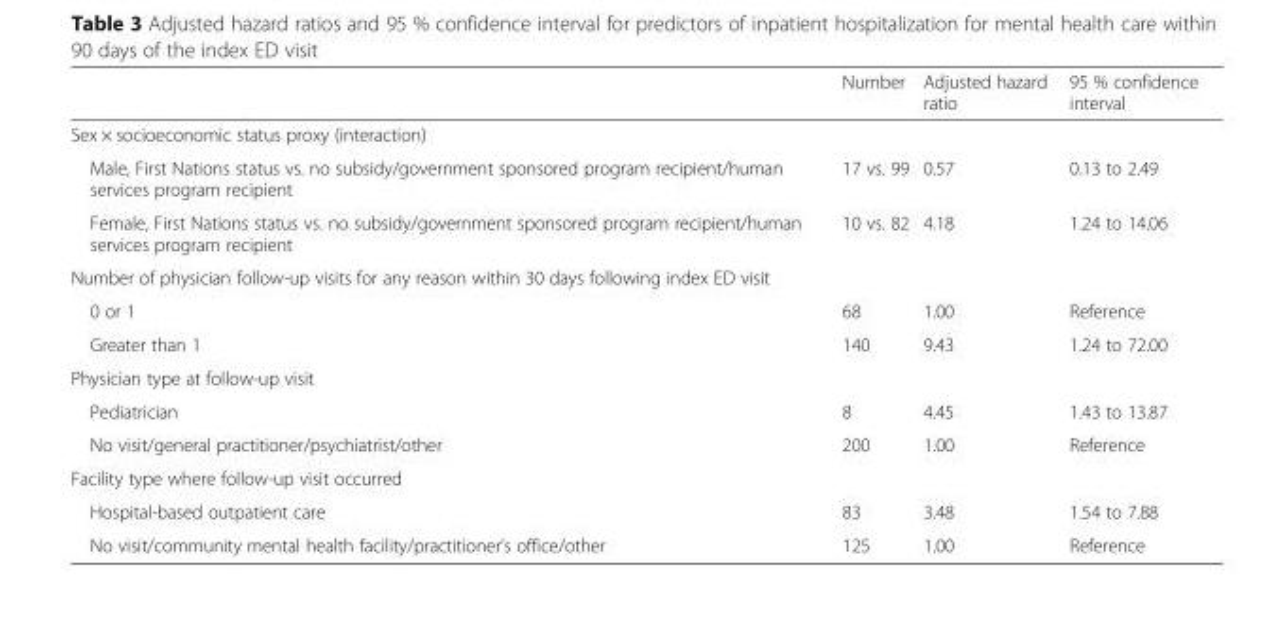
<table><thead><tr><td></td><td>Number</td><td>Adjusted hazard ratio</td><td>95 % confidence interval</td></tr></thead><tbody><tr><td colspan="4">Sex × socioeconomic status proxy (interaction)</td></tr><tr><td>Male, First Nations status vs. no subsidy/government sponsored program recipient/human services program recipient</td><td>17 vs. 99</td><td>0.57</td><td>0.13 to 2.49</td></tr><tr><td>Female, First Nations status vs. no subsidy/government sponsored program recipient/human services program recipient</td><td>10 vs. 82</td><td>4.18</td><td>1.24 to 14.06</td></tr><tr><td colspan="4">Number of physician follow-up visits for any reason within 30 days following index ED visit</td></tr><tr><td>0 or 1</td><td>68</td><td>1.00</td><td>Reference</td></tr><tr><td>Greater than 1</td><td>140</td><td>9.43</td><td>1.24 to 72.00</td></tr><tr><td colspan="4">Physician type at follow-up visit</td></tr><tr><td>Pediatrician</td><td>8</td><td>4.45</td><td>1.43 to 13.87</td></tr><tr><td>No visit/general practitioner/psychiatrist/other</td><td>200</td><td>1.00</td><td>Reference</td></tr><tr><td colspan="4">Facility type where follow-up visit occurred</td></tr><tr><td>Hospital-based outpatient care</td><td>83</td><td>3.48</td><td>1.54 to 7.88</td></tr><tr><td>No visit/community mental health facility/practitioner’s office/other</td><td>125</td><td>1.00</td><td>Reference</td></tr></tbody></table>